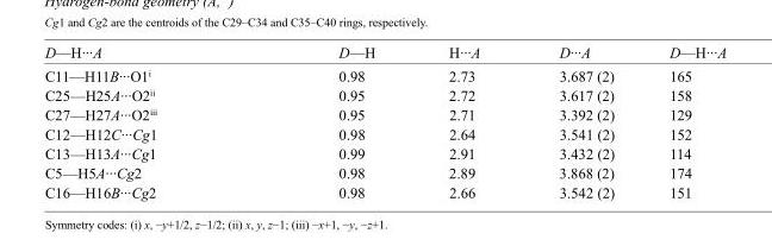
<table><tbody><tr><td>D—H···A</td><td>D—H</td><td>H···A</td><td>D···A</td><td>D—H···A</td></tr><tr><td>C11—H11B···O1<sup>i</sup></td><td>0.98</td><td>2.73</td><td>3.687 (2)</td><td>165</td></tr><tr><td>C25—H25A···O2<sup>ii</sup></td><td>0.95</td><td>2.72</td><td>3.617 (2)</td><td>158</td></tr><tr><td>C27—H27A···O2<sup>iii</sup></td><td>0.95</td><td>2.71</td><td>3.392 (2)</td><td>129</td></tr><tr><td>C12—H12C···Cg1</td><td>0.98</td><td>2.64</td><td>3.541 (2)</td><td>152</td></tr><tr><td>C13—H13A···Cg1</td><td>0.99</td><td>2.91</td><td>3.432 (2)</td><td>114</td></tr><tr><td>C5—H5A···Cg2</td><td>0.98</td><td>2.89</td><td>3.868 (2)</td><td>174</td></tr><tr><td>C16—H16B···Cg2</td><td>0.98</td><td>2.66</td><td>3.542 (2)</td><td>151</td></tr></tbody></table>